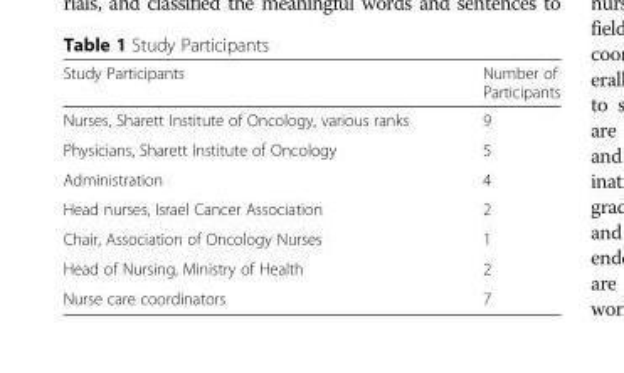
<table><thead><tr><td>Study Participants</td><td>Number of Participants</td></tr></thead><tbody><tr><td>Nurses, Sharett Institute of Oncology, various ranks</td><td>9</td></tr><tr><td>Physicians, Sharett Institute of Oncology</td><td>5</td></tr><tr><td>Administration</td><td>4</td></tr><tr><td>Head nurses, Israel Cancer Association</td><td>2</td></tr><tr><td>Chair, Association of Oncology Nurses</td><td>1</td></tr><tr><td>Head of Nursing, Ministry of Health</td><td>2</td></tr><tr><td>Nurse care coordinators</td><td>7</td></tr></tbody></table>